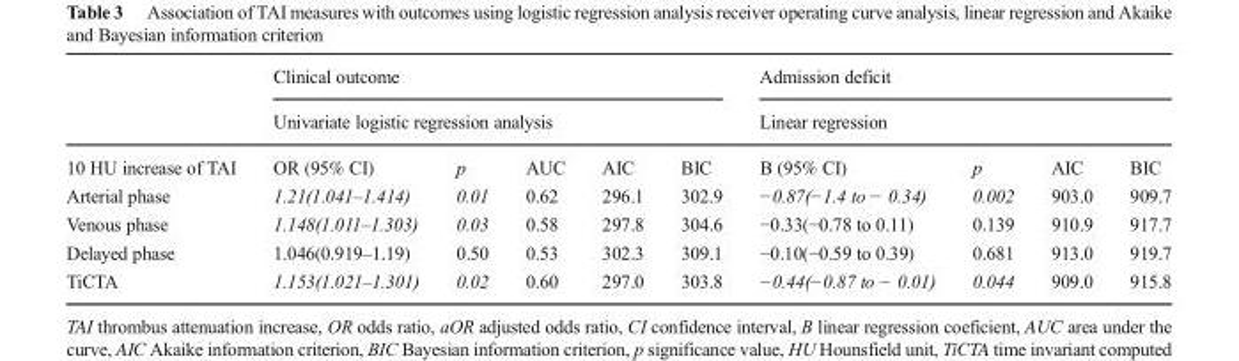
<table><thead><tr><td rowspan="3">10 HU increase of TAI</td><td rowspan="2" colspan="5">Clinical outcome Univariate logistic regression analysis</td><td rowspan="2" colspan="4">Admission deficit Linear regression</td></tr><tr></tr><tr><td>OR (95% CI)</td><td>p</td><td>AUC</td><td>AIC</td><td>BIC</td><td>B (95% CI)</td><td>p</td><td>AIC</td><td>BIC</td></tr></thead><tbody><tr><td>Arterial phase</td><td>1.21(1.041–1.414)</td><td>0.01</td><td>0.62</td><td>296.1</td><td>302.9</td><td>−0.87(−1.4 to − 0.34)</td><td>0.002</td><td>903.0</td><td>909.7</td></tr><tr><td>Venous phase</td><td>1.148(1.011–1.303)</td><td>0.03</td><td>0.58</td><td>297.8</td><td>304.6</td><td>−0.33(−0.78 to 0.11)</td><td>0.139</td><td>910.9</td><td>917.7</td></tr><tr><td>Delayed phase</td><td>1.046(0.919–1.19)</td><td>0.50</td><td>0.53</td><td>302.3</td><td>309.1</td><td>−0.10(−0.59 to 0.39)</td><td>0.681</td><td>913.0</td><td>919.7</td></tr><tr><td>TiCTA</td><td>1.153(1.021–1.301)</td><td>0.02</td><td>0.60</td><td>297.0</td><td>303.8</td><td>−0.44(−0.87 to − 0.01)</td><td>0.044</td><td>909.0</td><td>915.8</td></tr></tbody></table>